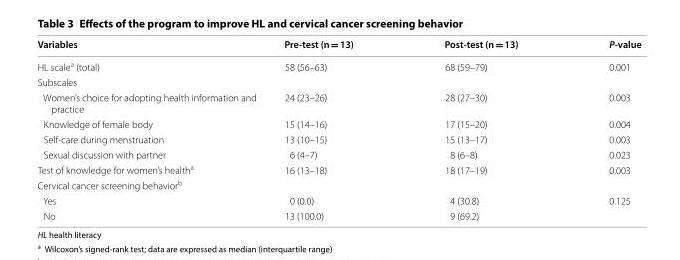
<table><thead><tr><td>Variables</td><td>Pre-test (n = 13)</td><td>Post-test (n = 13)</td><td>P-value</td></tr></thead><tbody><tr><td>HL scale<sup>a</sup> (total)</td><td>58 (56–63)</td><td>68 (59–79)</td><td>0.001</td></tr><tr><td colspan="4">Subscales</td></tr><tr><td>Women’s choice for adopting health information and practice</td><td>24 (23–26)</td><td>28 (27–30)</td><td>0.003</td></tr><tr><td>Knowledge of female body</td><td>15 (14–16)</td><td>17 (15–20)</td><td>0.004</td></tr><tr><td>Self‑care during menstruation</td><td>13 (10–15)</td><td>15 (13–17)</td><td>0.003</td></tr><tr><td>Sexual discussion with partner</td><td>6 (4–7)</td><td>8 (6–8)</td><td>0.023</td></tr><tr><td>Test of knowledge for women’s health<sup>a</sup></td><td>16 (13–18)</td><td>18 (17–19)</td><td>0.003</td></tr><tr><td colspan="4">Cervical cancer screening behavior<sup>b</sup></td></tr><tr><td>Yes</td><td>0 (0.0)</td><td>4 (30.8)</td><td rowspan="2">0.125</td></tr><tr><td>No</td><td>13 (100.0)</td><td>9 (69.2)</td></tr></tbody></table>